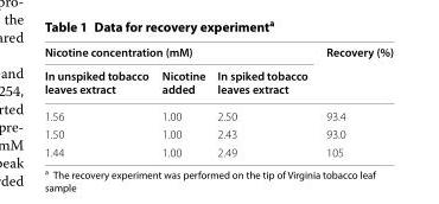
<table><thead><tr><td colspan="3">Nicotine concentration (mM)</td><td rowspan="2">Recovery (%)</td></tr><tr><td>In unspiked tobacco leaves extract</td><td>Nicotine added</td><td>In spiked tobacco leaves extract</td></tr></thead><tbody><tr><td>1.56</td><td>1.00</td><td>2.50</td><td>93.4</td></tr><tr><td>1.50</td><td>1.00</td><td>2.43</td><td>93.0</td></tr><tr><td>1.44</td><td>1.00</td><td>2.49</td><td>105</td></tr></tbody></table>